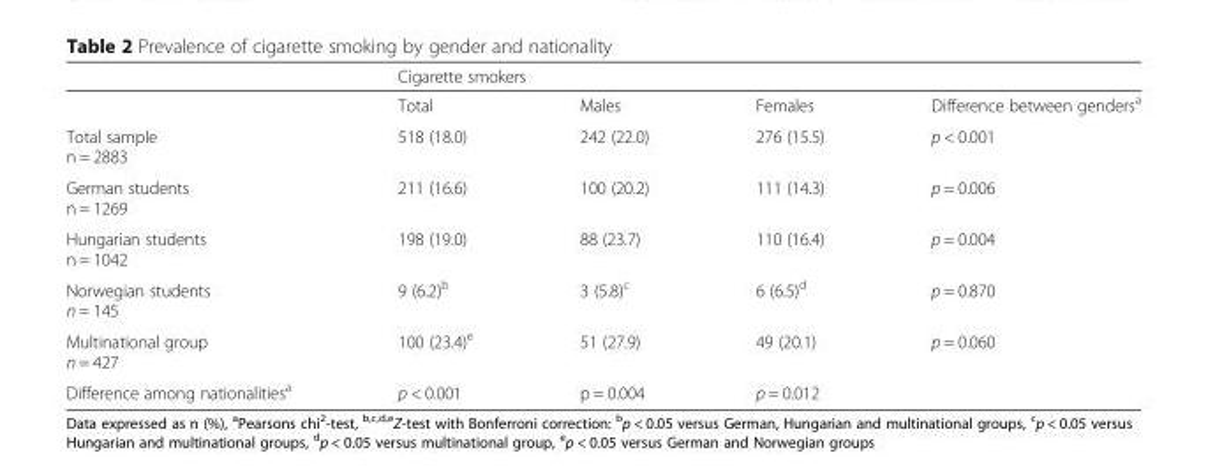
<table><thead><tr><td rowspan="2"></td><td colspan="3">Cigarette smokers</td><td rowspan="2">Difference between genders<sup>a</sup></td></tr><tr><td>Total</td><td>Males</td><td>Females</td></tr></thead><tbody><tr><td>Total sample n = 2883</td><td>518 (18.0)</td><td>242 (22.0)</td><td>276 (15.5)</td><td>p &lt; 0.001</td></tr><tr><td>German students n = 1269</td><td>211 (16.6)</td><td>100 (20.2)</td><td>111 (14.3)</td><td>p = 0.006</td></tr><tr><td>Hungarian students n = 1042</td><td>198 (19.0)</td><td>88 (23.7)</td><td>110 (16.4)</td><td>p = 0.004</td></tr><tr><td>Norwegian students n = 145</td><td>9 (6.2)<sup>b</sup></td><td>3 (5.8)<sup>c</sup></td><td>6 (6.5)<sup>d</sup></td><td>p = 0.870</td></tr><tr><td>Multinational group n = 427</td><td>100 (23.4)<sup>e</sup></td><td>51 (27.9)</td><td>49 (20.1)</td><td>p = 0.060</td></tr><tr><td>Difference among nationalities<sup>a</sup></td><td>p &lt; 0.001</td><td>p = 0.004</td><td>p = 0.012</td><td></td></tr></tbody></table>